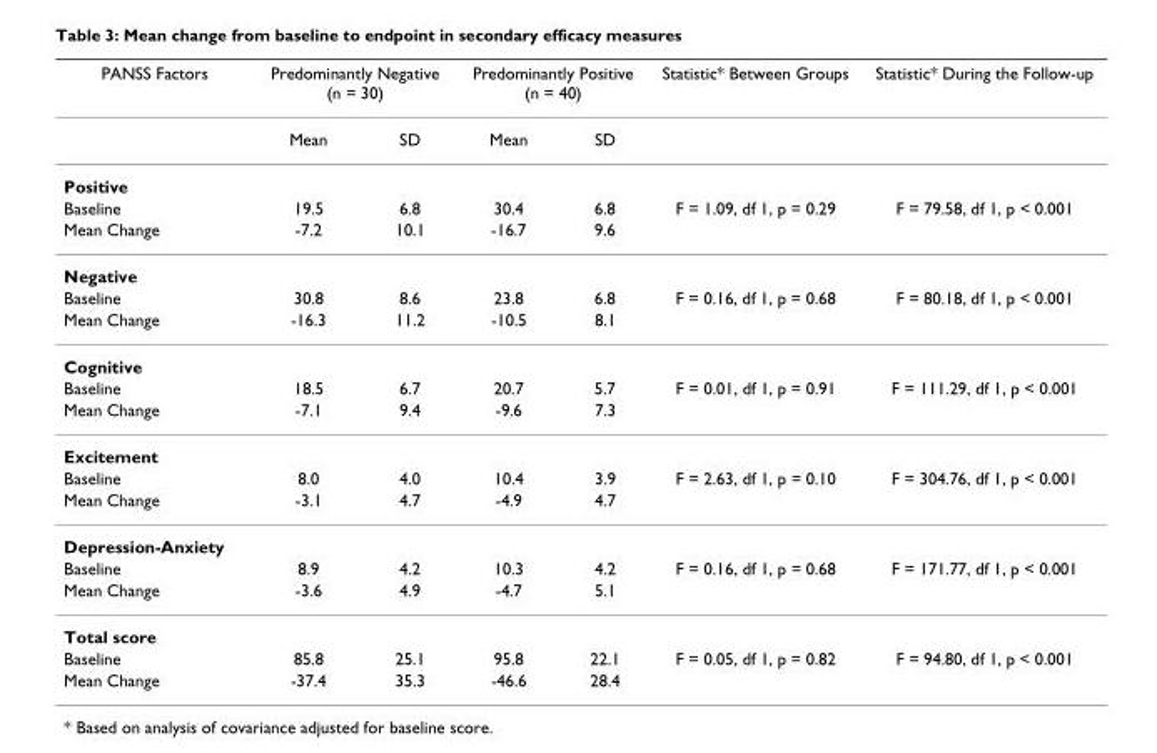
<table><thead><tr><td rowspan="2">PANSS Factors</td><td colspan="2">Predominantly Negative (n = 30)</td><td colspan="2">Predominantly Positive (n = 40)</td><td rowspan="2">Statistic* Between Groups</td><td rowspan="2">Statistic* During the Follow-up</td></tr><tr><td>Mean</td><td>SD</td><td>Mean</td><td>SD</td></tr></thead><tbody><tr><td colspan="7">Positive</td></tr><tr><td>Baseline</td><td>19.5</td><td>6.8</td><td>30.4</td><td>6.8</td><td>F = 1.09, df 1, p = 0.29</td><td>F = 79.58, df 1, p &lt; 0.001</td></tr><tr><td>Mean Change</td><td>-7.2</td><td>10.1</td><td>-16.7</td><td>9.6</td><td></td><td></td></tr><tr><td colspan="7">Negative</td></tr><tr><td>Baseline</td><td>30.8</td><td>8.6</td><td>23.8</td><td>6.8</td><td>F = 0.16, df 1, p = 0.68</td><td>F = 80.18, df 1, p &lt; 0.001</td></tr><tr><td>Mean Change</td><td>-16.3</td><td>11.2</td><td>-10.5</td><td>8.1</td><td></td><td></td></tr><tr><td colspan="7">Cognitive</td></tr><tr><td>Baseline</td><td>18.5</td><td>6.7</td><td>20.7</td><td>5.7</td><td>F = 0.01, df 1, p = 0.91</td><td>F = 111.29, df 1, p &lt; 0.001</td></tr><tr><td>Mean Change</td><td>-7.1</td><td>9.4</td><td>-9.6</td><td>7.3</td><td></td><td></td></tr><tr><td colspan="7">Excitement</td></tr><tr><td>Baseline</td><td>8.0</td><td>4.0</td><td>10.4</td><td>3.9</td><td>F = 2.63, df 1, p = 0.10</td><td>F = 304.76, df 1, p &lt; 0.001</td></tr><tr><td>Mean Change</td><td>-3.1</td><td>4.7</td><td>-4.9</td><td>4.7</td><td></td><td></td></tr><tr><td colspan="7">Depression-Anxiety</td></tr><tr><td>Baseline</td><td>8.9</td><td>4.2</td><td>10.3</td><td>4.2</td><td>F = 0.16, df 1, p = 0.68</td><td>F = 171.77, df 1, p &lt; 0.001</td></tr><tr><td>Mean Change</td><td>-3.6</td><td>4.9</td><td>-4.7</td><td>5.1</td><td></td><td></td></tr><tr><td colspan="7">Total score</td></tr><tr><td>Baseline</td><td>85.8</td><td>25.1</td><td>95.8</td><td>22.1</td><td>F = 0.05, df 1, p = 0.82</td><td>F = 94.80, df 1, p &lt; 0.001</td></tr><tr><td>Mean Change</td><td>-37.4</td><td>35.3</td><td>-46.6</td><td>28.4</td><td></td><td></td></tr></tbody></table>